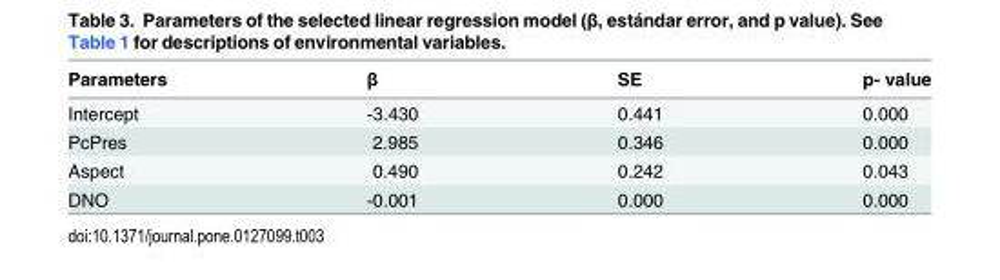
<table><thead><tr><td>Parameters</td><td>β</td><td>SE</td><td>p- value</td></tr></thead><tbody><tr><td>Intercept</td><td>-3.430</td><td>0.441</td><td>0.000</td></tr><tr><td>PcPres</td><td>2.985</td><td>0.346</td><td>0.000</td></tr><tr><td>Aspect</td><td>0.490</td><td>0.242</td><td>0.043</td></tr><tr><td>DNO</td><td>-0.001</td><td>0.000</td><td>0.000</td></tr></tbody></table>